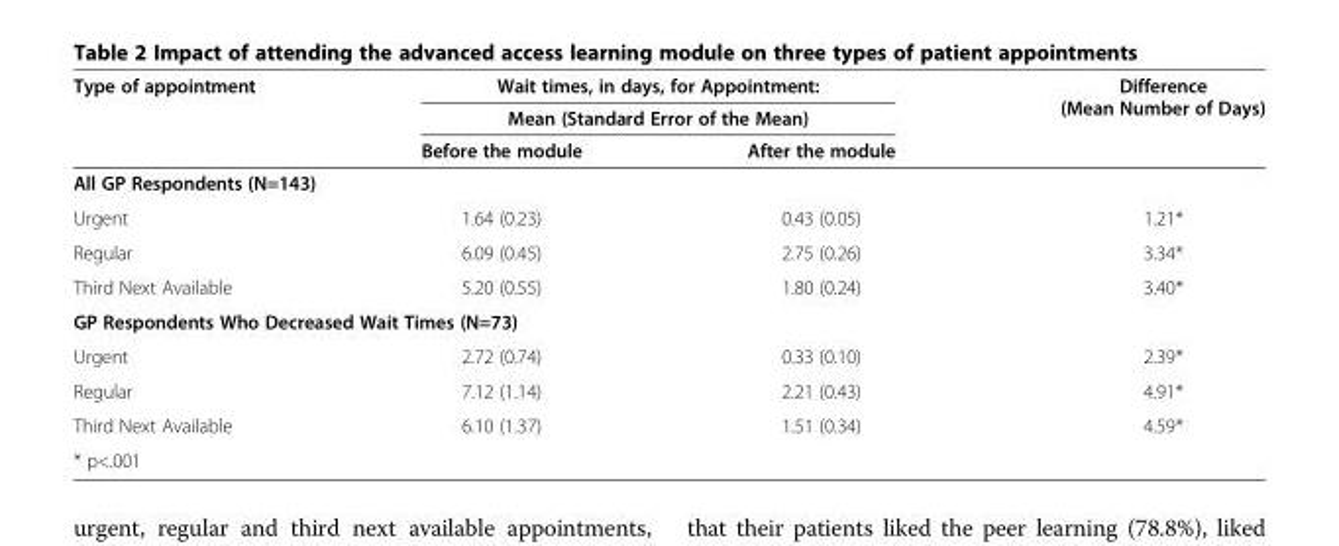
<table><thead><tr><td rowspan="3">Type of appointment</td><td rowspan="2" colspan="2">Wait times, in days, for Appointment: Mean (Standard Error of the Mean)</td><td rowspan="3">Difference (Mean Number of Days)</td></tr><tr></tr><tr><td>Before the module</td><td>After the module</td></tr></thead><tbody><tr><td colspan="4">All GP Respondents (N=143)</td></tr><tr><td>Urgent</td><td>1.64 (0.23)</td><td>0.43 (0.05)</td><td>1.21*</td></tr><tr><td>Regular</td><td>6.09 (0.45)</td><td>2.75 (0.26)</td><td>3.34*</td></tr><tr><td>Third Next Available</td><td>5.20 (0.55)</td><td>1.80 (0.24)</td><td>3.40*</td></tr><tr><td colspan="4">GP Respondents Who Decreased Wait Times (N=73)</td></tr><tr><td>Urgent</td><td>2.72 (0.74)</td><td>0.33 (0.10)</td><td>2.39*</td></tr><tr><td>Regular</td><td>7.12 (1.14)</td><td>2.21 (0.43)</td><td>4.91*</td></tr><tr><td>Third Next Available</td><td>6.10 (1.37)</td><td>1.51 (0.34)</td><td>4.59*</td></tr><tr><td colspan="4">* p&lt;.001</td></tr></tbody></table>